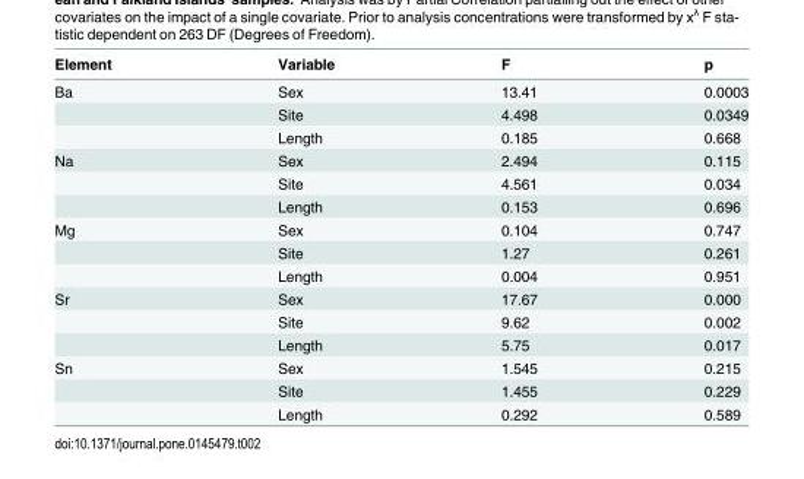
<table><thead><tr><td>Element</td><td>Variable</td><td>F</td><td>p</td></tr></thead><tbody><tr><td rowspan="3">Ba</td><td>Sex</td><td>13.41</td><td>0.0003</td></tr><tr><td>Site</td><td>4.498</td><td>0.0349</td></tr><tr><td>Length</td><td>0.185</td><td>0.668</td></tr><tr><td rowspan="3">Na</td><td>Sex</td><td>2.494</td><td>0.115</td></tr><tr><td>Site</td><td>4.561</td><td>0.034</td></tr><tr><td>Length</td><td>0.153</td><td>0.696</td></tr><tr><td rowspan="3">Mg</td><td>Sex</td><td>0.104</td><td>0.747</td></tr><tr><td>Site</td><td>1.27</td><td>0.261</td></tr><tr><td>Length</td><td>0.004</td><td>0.951</td></tr><tr><td rowspan="3">Sr</td><td>Sex</td><td>17.67</td><td>0.000</td></tr><tr><td>Site</td><td>9.62</td><td>0.002</td></tr><tr><td>Length</td><td>5.75</td><td>0.017</td></tr><tr><td rowspan="3">Sn</td><td>Sex</td><td>1.545</td><td>0.215</td></tr><tr><td>Site</td><td>1.455</td><td>0.229</td></tr><tr><td>Length</td><td>0.292</td><td>0.589</td></tr></tbody></table>